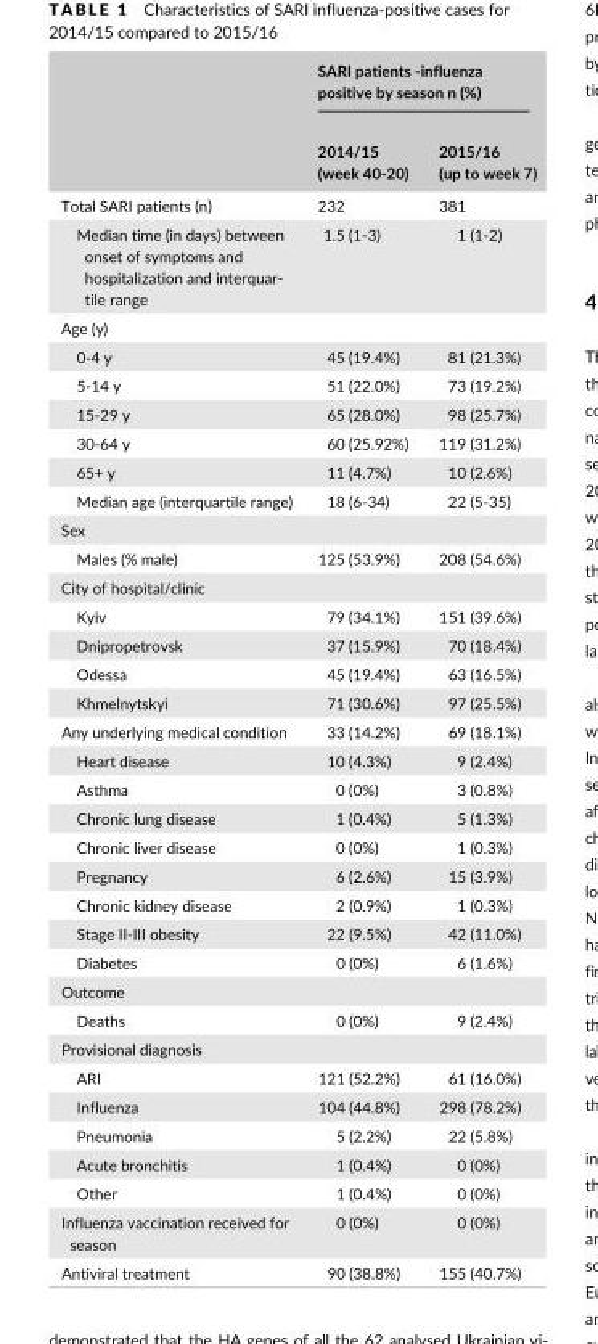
<table><thead><tr><td rowspan="2"></td><td colspan="2">SARI patients - influenza positive by season n (%)</td></tr><tr><td>2014/15 (week 40- 20)</td><td>2015/16 (up to week 7)</td></tr></thead><tbody><tr><td>Total SARI patients (n)</td><td>232</td><td>381</td></tr><tr><td>Median time (in days) between onset of symptoms and hospitalization and interquar- tile range</td><td>1.5 (1- 3)</td><td>1 (1- 2)</td></tr><tr><td colspan="3">Age (y)</td></tr><tr><td>0- 4 y</td><td>45 (19.4%)</td><td>81 (21.3%)</td></tr><tr><td>5- 14 y</td><td>51 (22.0%)</td><td>73 (19.2%)</td></tr><tr><td>15- 29 y</td><td>65 (28.0%)</td><td>98 (25.7%)</td></tr><tr><td>30- 64 y</td><td>60 (25.92%)</td><td>119 (31.2%)</td></tr><tr><td>65+ y</td><td>11 (4.7%)</td><td>10 (2.6%)</td></tr><tr><td>Median age (interquartile range)</td><td>18 (6- 34)</td><td>22 (5- 35)</td></tr><tr><td colspan="3">Sex</td></tr><tr><td>Males (% male)</td><td>125 (53.9%)</td><td>208 (54.6%)</td></tr><tr><td colspan="3">City of hospital/clinic</td></tr><tr><td>Kyiv</td><td>79 (34.1%)</td><td>151 (39.6%)</td></tr><tr><td>Dnipropetrovsk</td><td>37 (15.9%)</td><td>70 (18.4%)</td></tr><tr><td>Odessa</td><td>45 (19.4%)</td><td>63 (16.5%)</td></tr><tr><td>Khmelnytskyi</td><td>71 (30.6%)</td><td>97 (25.5%)</td></tr><tr><td>Any underlying medical condition</td><td>33 (14.2%)</td><td>69 (18.1%)</td></tr><tr><td>Heart disease</td><td>10 (4.3%)</td><td>9 (2.4%)</td></tr><tr><td>Asthma</td><td>0 (0%)</td><td>3 (0.8%)</td></tr><tr><td>Chronic lung disease</td><td>1 (0.4%)</td><td>5 (1.3%)</td></tr><tr><td>Chronic liver disease</td><td>0 (0%)</td><td>1 (0.3%)</td></tr><tr><td>Pregnancy</td><td>6 (2.6%)</td><td>15 (3.9%)</td></tr><tr><td>Chronic kidney disease</td><td>2 (0.9%)</td><td>1 (0.3%)</td></tr><tr><td>Stage II- III obesity</td><td>22 (9.5%)</td><td>42 (11.0%)</td></tr><tr><td>Diabetes</td><td>0 (0%)</td><td>6 (1.6%)</td></tr><tr><td colspan="3">Outcome</td></tr><tr><td>Deaths</td><td>0 (0%)</td><td>9 (2.4%)</td></tr><tr><td colspan="3">Provisional diagnosis</td></tr><tr><td>ARI</td><td>121 (52.2%)</td><td>61 (16.0%)</td></tr><tr><td>Influenza</td><td>104 (44.8%)</td><td>298 (78.2%)</td></tr><tr><td>Pneumonia</td><td>5 (2.2%)</td><td>22 (5.8%)</td></tr><tr><td>Acute bronchitis</td><td>1 (0.4%)</td><td>0 (0%)</td></tr><tr><td>Other</td><td>1 (0.4%)</td><td>0 (0%)</td></tr><tr><td>Influenza vaccination received for season</td><td>0 (0%)</td><td>0 (0%)</td></tr><tr><td>Antiviral treatment</td><td>90 (38.8%)</td><td>155 (40.7%)</td></tr></tbody></table>